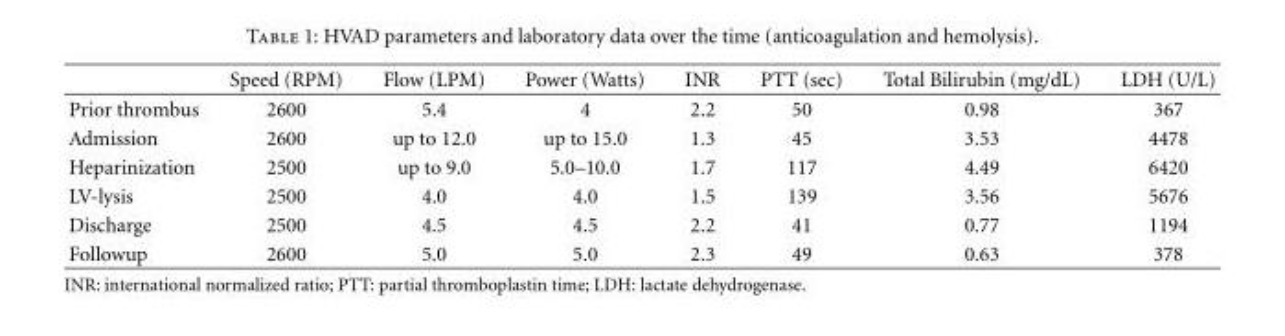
<table><thead><tr><td></td><td>Speed (RPM)</td><td>Flow (LPM)</td><td>Power (Watts)</td><td>INR</td><td>PTT (sec)</td><td>Total Bilirubin (mg/dL)</td><td>LDH (U/L)</td></tr></thead><tbody><tr><td>Prior thrombus</td><td>2600</td><td>5.4</td><td>4</td><td>2.2</td><td>50</td><td>0.98</td><td>367</td></tr><tr><td>Admission</td><td>2600</td><td>up to 12.0</td><td>up to 15.0</td><td>1.3</td><td>45</td><td>3.53</td><td>4478</td></tr><tr><td>Heparinization</td><td>2500</td><td>up to 9.0</td><td>5.0–10.0</td><td>1.7</td><td>117</td><td>4.49</td><td>6420</td></tr><tr><td>LV-lysis</td><td>2500</td><td>4.0</td><td>4.0</td><td>1.5</td><td>139</td><td>3.56</td><td>5676</td></tr><tr><td>Discharge</td><td>2500</td><td>4.5</td><td>4.5</td><td>2.2</td><td>41</td><td>0.77</td><td>1194</td></tr><tr><td>Followup</td><td>2600</td><td>5.0</td><td>5.0</td><td>2.3</td><td>49</td><td>0.63</td><td>378</td></tr></tbody></table>